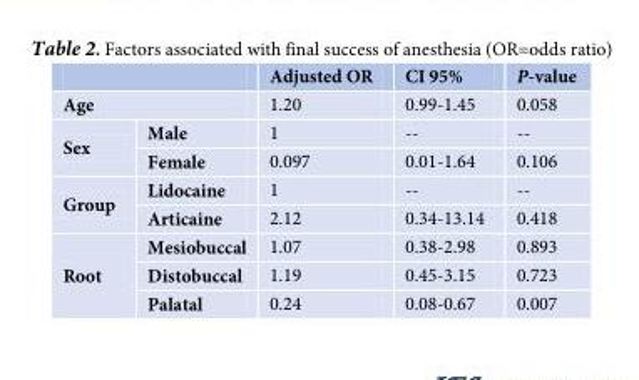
<table><thead><tr><td></td><td></td><td>Adjusted OR</td><td>CI 95%</td><td>P-value</td></tr></thead><tbody><tr><td colspan="2">Age</td><td>1.20</td><td>0.99-1.45</td><td>0.058</td></tr><tr><td rowspan="2">Sex</td><td>Male</td><td>1</td><td>--</td><td>--</td></tr><tr><td>Female</td><td>0.097</td><td>0.01-1.64</td><td>0.106</td></tr><tr><td rowspan="2">Group</td><td>Lidocaine</td><td>1</td><td>--</td><td>--</td></tr><tr><td>Articaine</td><td>2.12</td><td>0.34-13.14</td><td>0.418</td></tr><tr><td rowspan="3">Root</td><td>Mesiobuccal</td><td>1.07</td><td>0.38-2.98</td><td>0.893</td></tr><tr><td>Distobuccal</td><td>1.19</td><td>0.45-3.15</td><td>0.723</td></tr><tr><td>Palatal</td><td>0.24</td><td>0.08-0.67</td><td>0.007</td></tr></tbody></table>